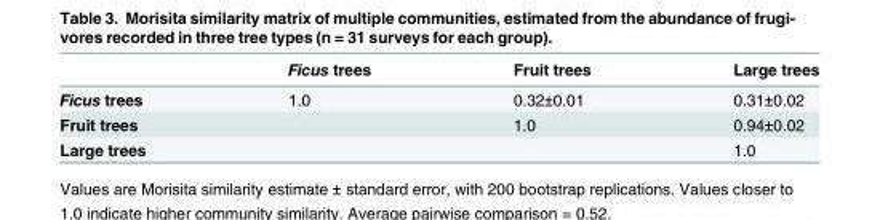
<table><thead><tr><td></td><td>Ficus trees</td><td>Fruit trees</td><td>Large trees</td></tr></thead><tbody><tr><td>Ficus trees</td><td>1.0</td><td>0.32±0.01</td><td>0.31±0.02</td></tr><tr><td>Fruit trees</td><td></td><td>1.0</td><td>0.94±0.02</td></tr><tr><td>Large trees</td><td></td><td></td><td>1.0</td></tr></tbody></table>